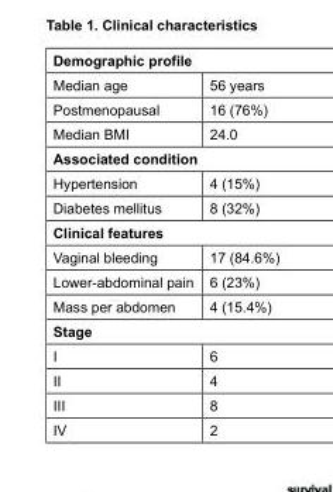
<table><tbody><tr><td colspan="2">Demographic profile</td></tr><tr><td>Median age</td><td>56 years</td></tr><tr><td>Postmenopausal</td><td>16 (76%)</td></tr><tr><td>Median BMI</td><td>24.0</td></tr><tr><td colspan="2">Associated condition</td></tr><tr><td>Hypertension</td><td>4 (15%)</td></tr><tr><td>Diabetes mellitus</td><td>8 (32%)</td></tr><tr><td colspan="2">Clinical features</td></tr><tr><td>Vaginal bleeding</td><td>17 (84.6%)</td></tr><tr><td>Lower-abdominal pain</td><td>6 (23%)</td></tr><tr><td>Mass per abdomen</td><td>4 (15.4%)</td></tr><tr><td colspan="2">Stage</td></tr><tr><td>I</td><td>6</td></tr><tr><td>II</td><td>4</td></tr><tr><td>III</td><td>8</td></tr><tr><td>IV</td><td>2</td></tr></tbody></table>